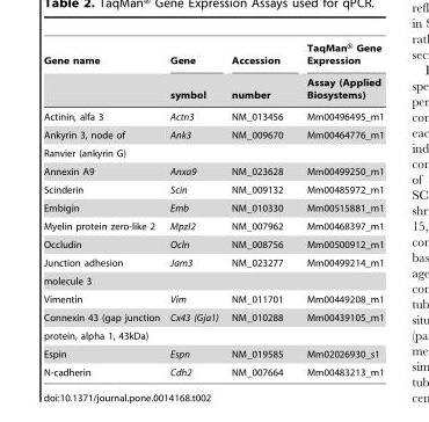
<table><thead><tr><td rowspan="2">Gene name</td><td rowspan="2">Gene symbol</td><td rowspan="2">Accession number</td><td rowspan="2">TaqMan® Gene Expression Assay (Applied Biosystems)</td></tr><tr></tr></thead><tbody><tr><td>Actinin, alfa 3</td><td>Actn3</td><td>NM_013456</td><td>Mm00496495_m1</td></tr><tr><td>Ankyrin 3, node of</td><td>Ank3</td><td>NM_009670</td><td>Mm00464776_m1</td></tr><tr><td colspan="4">Ranvier (ankyrin G)</td></tr><tr><td>Annexin A9</td><td>Anxa9</td><td>NM_023628</td><td>Mm00499250_m1</td></tr><tr><td>Scinderin</td><td>Scin</td><td>NM_009132</td><td>Mm00485972_m1</td></tr><tr><td>Embigin</td><td>Emb</td><td>NM_010330</td><td>Mm00515881_m1</td></tr><tr><td>Myelin protein zero-like 2</td><td>Mpzl2</td><td>NM_007962</td><td>Mm00468397_m1</td></tr><tr><td>Occludin</td><td>Ocln</td><td>NM_008756</td><td>Mm00500912_m1</td></tr><tr><td>Junction adhesion</td><td>Jam3</td><td>NM_023277</td><td>Mm00499214_m1</td></tr><tr><td colspan="4">molecule 3</td></tr><tr><td>Vimentin</td><td>Vim</td><td>NM_011701</td><td>Mm00449208_m1</td></tr><tr><td>Connexin 43 (gap junction</td><td>Cx43 (Gja1)</td><td>NM_010288</td><td>Mm00439105_m1</td></tr><tr><td colspan="4">protein, alpha 1, 43kDa)</td></tr><tr><td>Espin</td><td>Espn</td><td>NM_019585</td><td>Mm02026930_s1</td></tr><tr><td>N-cadherin</td><td>Cdh2</td><td>NM_007664</td><td>Mm00483213_m1</td></tr></tbody></table>